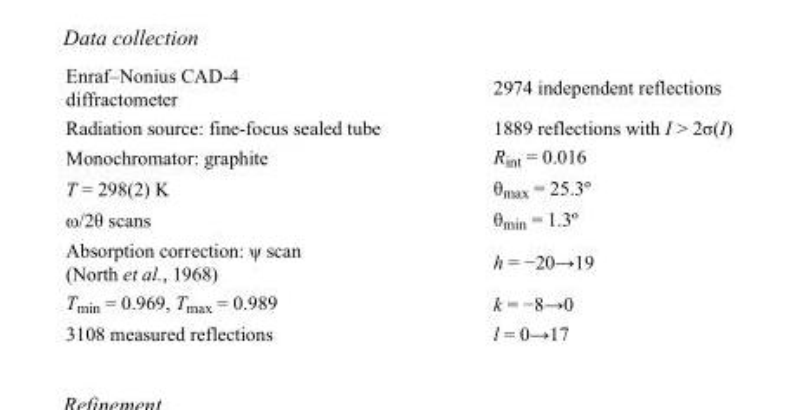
<table><tbody><tr><td>Enraf–Nonius CAD-4 diffractometer</td><td>2974 independent reflections</td></tr><tr><td>Radiation source: fine-focus sealed tube</td><td>1889 reflections with I &gt; 2σ(I)</td></tr><tr><td>Monochromator: graphite</td><td>R<sub>int</sub> = 0.016</td></tr><tr><td>T = 298(2) K</td><td>θ<sub>max</sub> = 25.3º</td></tr><tr><td>ω/2θ scans</td><td>θ<sub>min</sub> = 1.3º</td></tr><tr><td>Absorption correction: ψ scan (North et al., 1968)</td><td>h = −20→19</td></tr><tr><td>T<sub>min</sub> = 0.969, T<sub>max</sub> = 0.989</td><td>k = −8→0</td></tr><tr><td>3108 measured reflections</td><td>l = 0→17</td></tr></tbody></table>